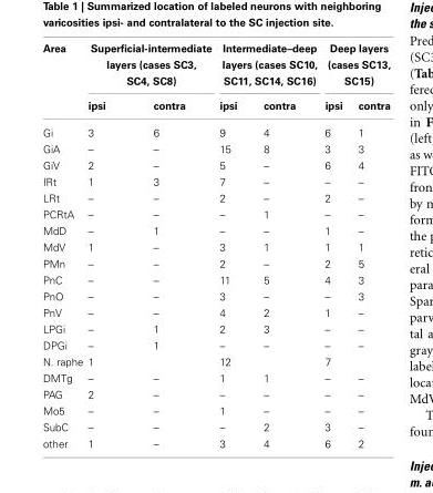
<table><thead><tr><td rowspan="2">Area</td><td colspan="2">Superficial-intermediate layers (cases SC3, SC4, SC8)</td><td colspan="2">Intermediate–deep layers (cases SC10, SC11, SC14, SC16)</td><td colspan="2">Deep layers (cases SC13, SC15)</td></tr><tr><td>ipsi</td><td>contra</td><td>ipsi</td><td>contra</td><td>ipsi</td><td>contra</td></tr></thead><tbody><tr><td>Gi</td><td>3</td><td>6</td><td>9</td><td>4</td><td>6</td><td>1</td></tr><tr><td>GiA</td><td>–</td><td>–</td><td>15</td><td>8</td><td>3</td><td>3</td></tr><tr><td>GiV</td><td>2</td><td>–</td><td>5</td><td>–</td><td>6</td><td>4</td></tr><tr><td>IRt</td><td>1</td><td>3</td><td>7</td><td>–</td><td>–</td><td>–</td></tr><tr><td>LRt</td><td>–</td><td>–</td><td>2</td><td>–</td><td>2</td><td>–</td></tr><tr><td>PCRtA</td><td>–</td><td>–</td><td>–</td><td>1</td><td>–</td><td>–</td></tr><tr><td>MdD</td><td>–</td><td>1</td><td>–</td><td>–</td><td>1</td><td>–</td></tr><tr><td>MdV</td><td>1</td><td>–</td><td>3</td><td>1</td><td>1</td><td>1</td></tr><tr><td>PMn</td><td>–</td><td>–</td><td>2</td><td>–</td><td>2</td><td>5</td></tr><tr><td>PnC</td><td>–</td><td>–</td><td>11</td><td>5</td><td>4</td><td>3</td></tr><tr><td>PnO</td><td>–</td><td>–</td><td>3</td><td>–</td><td>–</td><td>3</td></tr><tr><td>PnV</td><td>–</td><td>–</td><td>4</td><td>2</td><td>1</td><td>–</td></tr><tr><td>LPGi</td><td>–</td><td>1</td><td>2</td><td>3</td><td>–</td><td>–</td></tr><tr><td>DPGi</td><td>–</td><td>1</td><td>–</td><td>–</td><td>–</td><td>–</td></tr><tr><td>N. raphe</td><td>1</td><td></td><td>12</td><td></td><td>7</td><td></td></tr><tr><td>DMTg</td><td>–</td><td>–</td><td>1</td><td>1</td><td>–</td><td>–</td></tr><tr><td>PAG</td><td>2</td><td>–</td><td>–</td><td>–</td><td>–</td><td>–</td></tr><tr><td>Mo5</td><td>–</td><td>–</td><td>1</td><td>–</td><td>–</td><td>–</td></tr><tr><td>SubC</td><td>–</td><td>–</td><td>–</td><td>2</td><td>3</td><td>–</td></tr><tr><td>other</td><td>1</td><td>–</td><td>3</td><td>4</td><td>6</td><td>2</td></tr></tbody></table>